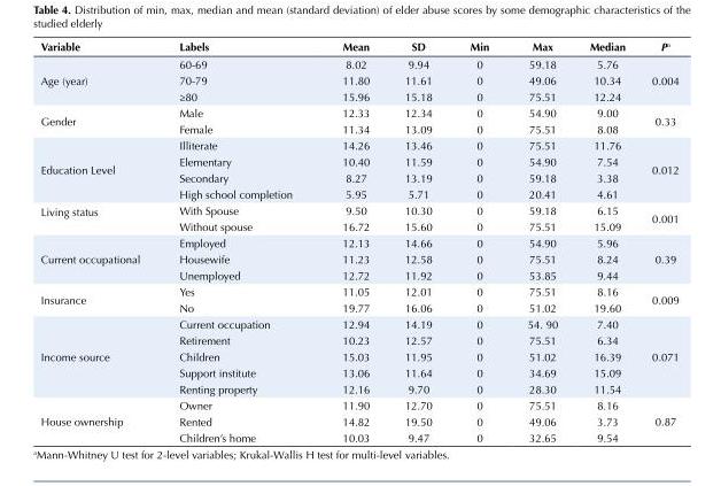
<table><tbody><tr><td>Variable</td><td>Labels</td><td>Mean</td><td>SD</td><td>Min</td><td>Max</td><td>Median</td><td>P<sup>a</sup></td></tr><tr><td rowspan="3">Age (year)</td><td>60-69</td><td>8.02</td><td>9.94</td><td>0</td><td>59.18</td><td>5.76</td><td rowspan="3">0.004</td></tr><tr><td>70-79</td><td>11.80</td><td>11.61</td><td>0</td><td>49.06</td><td>10.34</td></tr><tr><td>≥80</td><td>15.96</td><td>15.18</td><td>0</td><td>75.51</td><td>12.24</td></tr><tr><td rowspan="2">Gender</td><td>Male</td><td>12.33</td><td>12.34</td><td>0</td><td>54.90</td><td>9.00</td><td rowspan="2">0.33</td></tr><tr><td>Female</td><td>11.34</td><td>13.09</td><td>0</td><td>75.51</td><td>8.08</td></tr><tr><td rowspan="4">Education Level</td><td>Illiterate</td><td>14.26</td><td>13.46</td><td>0</td><td>75.51</td><td>11.76</td><td rowspan="4">0.012</td></tr><tr><td>Elementary</td><td>10.40</td><td>11.59</td><td>0</td><td>54.90</td><td>7.54</td></tr><tr><td>Secondary</td><td>8.27</td><td>13.19</td><td>0</td><td>59.18</td><td>3.38</td></tr><tr><td>High school completion</td><td>5.95</td><td>5.71</td><td>0</td><td>20.41</td><td>4.61</td></tr><tr><td rowspan="2">Living status</td><td>With Spouse</td><td>9.50</td><td>10.30</td><td>0</td><td>59.18</td><td>6.15</td><td rowspan="2">0.001</td></tr><tr><td>Without spouse</td><td>16.72</td><td>15.60</td><td>0</td><td>75.51</td><td>15.09</td></tr><tr><td rowspan="3">Current occupational</td><td>Employed</td><td>12.13</td><td>14.66</td><td>0</td><td>54.90</td><td>5.96</td><td rowspan="3">0.39</td></tr><tr><td>Housewife</td><td>11.23</td><td>12.58</td><td>0</td><td>75.51</td><td>8.24</td></tr><tr><td>Unemployed</td><td>12.72</td><td>11.92</td><td>0</td><td>53.85</td><td>9.44</td></tr><tr><td rowspan="2">Insurance</td><td>Yes</td><td>11.05</td><td>12.01</td><td>0</td><td>75.51</td><td>8.16</td><td rowspan="2">0.009</td></tr><tr><td>No</td><td>19.77</td><td>16.06</td><td>0</td><td>51.02</td><td>19.60</td></tr><tr><td rowspan="5">Income source</td><td>Current occupation</td><td>12.94</td><td>14.19</td><td>0</td><td>54. 90</td><td>7.40</td><td rowspan="5">0.071</td></tr><tr><td>Retirement</td><td>10.23</td><td>12.57</td><td>0</td><td>75.51</td><td>6.34</td></tr><tr><td>Children</td><td>15.03</td><td>11.95</td><td>0</td><td>51.02</td><td>16.39</td></tr><tr><td>Support institute</td><td>13.06</td><td>11.64</td><td>0</td><td>34.69</td><td>15.09</td></tr><tr><td>Renting property</td><td>12.16</td><td>9.70</td><td>0</td><td>28.30</td><td>11.54</td></tr><tr><td rowspan="3">House ownership</td><td>Owner</td><td>11.90</td><td>12.70</td><td>0</td><td>75.51</td><td>8.16</td><td rowspan="3">0.87</td></tr><tr><td>Rented</td><td>14.82</td><td>19.50</td><td>0</td><td>49.06</td><td>3.73</td></tr><tr><td>Children’s home</td><td>10.03</td><td>9.47</td><td>0</td><td>32.65</td><td>9.54</td></tr></tbody></table>